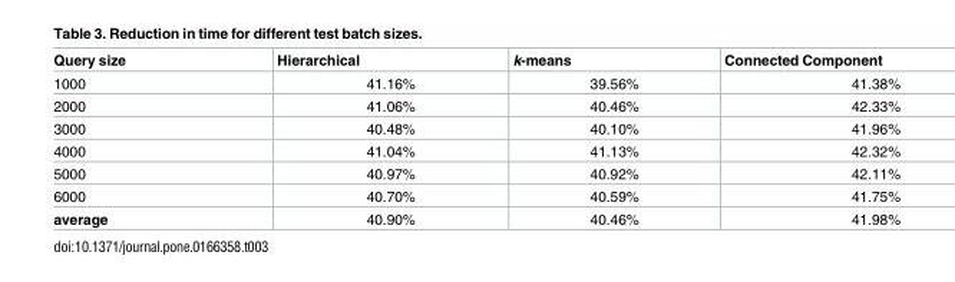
<table><thead><tr><td>Query size</td><td>Hierarchical</td><td>k-means</td><td>Connected Component</td></tr></thead><tbody><tr><td>1000</td><td>41.16%</td><td>39.56%</td><td>41.38%</td></tr><tr><td>2000</td><td>41.06%</td><td>40.46%</td><td>42.33%</td></tr><tr><td>3000</td><td>40.48%</td><td>40.10%</td><td>41.96%</td></tr><tr><td>4000</td><td>41.04%</td><td>41.13%</td><td>42.32%</td></tr><tr><td>5000</td><td>40.97%</td><td>40.92%</td><td>42.11%</td></tr><tr><td>6000</td><td>40.70%</td><td>40.59%</td><td>41.75%</td></tr><tr><td>average</td><td>40.90%</td><td>40.46%</td><td>41.98%</td></tr></tbody></table>